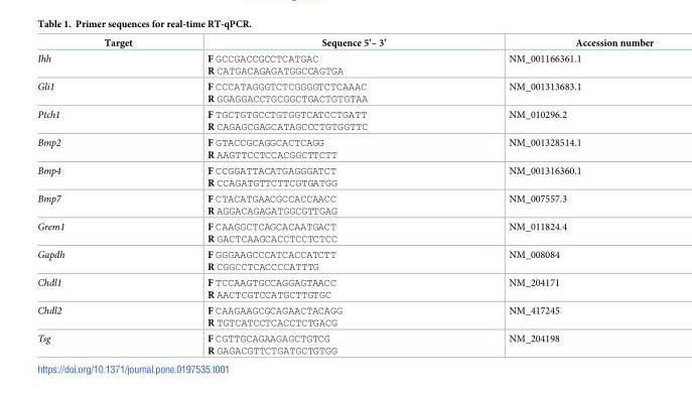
<table><thead><tr><td>Target</td><td>Sequence 5’– 3’</td><td>Accession number</td></tr></thead><tbody><tr><td>Ihh</td><td>F GCCGACCGCCTCATGAC R CATGACAGAGATGGCCAGTGA</td><td>NM_001166361.1</td></tr><tr><td>Gli1</td><td>F CCCATAGGGTCTCGGGGTCTCAAAC R GGAGGACCTGCGGCTGACTGTGTAA</td><td>NM_001313683.1</td></tr><tr><td>Ptch1</td><td>F TGCTGTGCCTGTGGTCATCCTGATT R CAGAGCGAGCATAGCCCTGTGGTTC</td><td>NM_010296.2</td></tr><tr><td>Bmp2</td><td>F GTACCGCAGGCACTCAGG R AAGTTCCTCCACGGCTTCTT</td><td>NM_001328514.1</td></tr><tr><td>Bmp4</td><td>F CCGGATTACATGAGGGATCT R CCAGATGTTCTTCGTGATGG</td><td>NM_001316360.1</td></tr><tr><td>Bmp7</td><td>F CTACATGAACGCCACCAACC R AGGACAGAGATGGCGTTGAG</td><td>NM_007557.3</td></tr><tr><td>Grem1</td><td>F CAAGGCTCAGCACAATGACT R GACTCAAGCACCTCCTCTCC</td><td>NM_011824.4</td></tr><tr><td>Gapdh</td><td>F GGGAAGCCCATCACCATCTT R CGGCCTCACCCCATTTG</td><td>NM_008084</td></tr><tr><td>Chdl1</td><td>F TCCAAGTGCCAGGAGTAACC R AACTCGTCCATGCTTGTGC</td><td>NM_204171</td></tr><tr><td>Chdl2</td><td>F CAAGAAGCGCAGAACTACAGG R TGTCATCCTCACCTCTGACG</td><td>NM_417245</td></tr><tr><td>Tsg</td><td>F CGTTGCAGAAGAGCTGTCG R GAGACGTTCTGATGCTGTGG</td><td>NM_204198</td></tr></tbody></table>